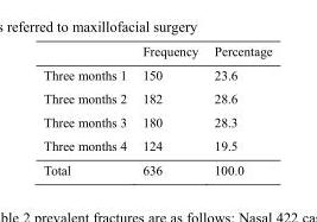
<table><thead><tr><td></td><td>Frequency</td><td>Percentage</td></tr></thead><tbody><tr><td>Three months 1</td><td>150</td><td>23.6</td></tr><tr><td>Three months 2</td><td>182</td><td>28.6</td></tr><tr><td>Three months 3</td><td>180</td><td>28.3</td></tr><tr><td>Three months 4</td><td>124</td><td>19.5</td></tr><tr><td>Total</td><td>636</td><td>100.0</td></tr></tbody></table>